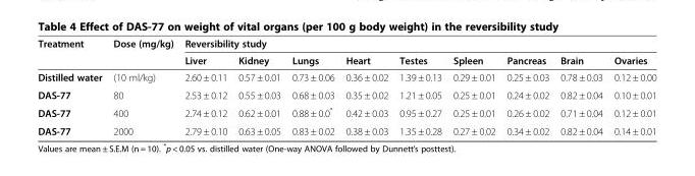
<table><thead><tr><td rowspan="2">Treatment</td><td rowspan="2">Dose (mg/kg)</td><td colspan="9">Reversibility study</td></tr><tr><td>Liver</td><td>Kidney</td><td>Lungs</td><td>Heart</td><td>Testes</td><td>Spleen</td><td>Pancreas</td><td>Brain</td><td>Ovaries</td></tr></thead><tbody><tr><td>Distilled water</td><td>(10 ml/kg)</td><td>2.60 ± 0.11</td><td>0.57 ± 0.01</td><td>0.73 ± 0.06</td><td>0.36 ± 0.02</td><td>1.39 ± 0.13</td><td>0.29 ± 0.01</td><td>0.25 ± 0.03</td><td>0.78 ± 0.03</td><td>0.12 ± 0.00</td></tr><tr><td>DAS-77</td><td>80</td><td>2.53 ± 0.12</td><td>0.55 ± 0.03</td><td>0.68 ± 0.03</td><td>0.35 ± 0.02</td><td>1.21 ± 0.05</td><td>0.25 ± 0.01</td><td>0.24 ± 0.02</td><td>0.82 ± 0.04</td><td>0.10 ± 0.01</td></tr><tr><td>DAS-77</td><td>400</td><td>2.74 ± 0.12</td><td>0.62 ± 0.01</td><td>0.88 ± 0.0*</td><td>0.42 ± 0.03</td><td>0.95 ± 0.27</td><td>0.25 ± 0.01</td><td>0.26 ± 0.02</td><td>0.71 ± 0.04</td><td>0.12 ± 0.01</td></tr><tr><td>DAS-77</td><td>2000</td><td>2.79 ± 0.10</td><td>0.63 ± 0.05</td><td>0.83 ± 0.02</td><td>0.38 ± 0.03</td><td>1.35 ± 0.28</td><td>0.27 ± 0.02</td><td>0.34 ± 0.02</td><td>0.82 ± 0.04</td><td>0.14 ± 0.01</td></tr></tbody></table>